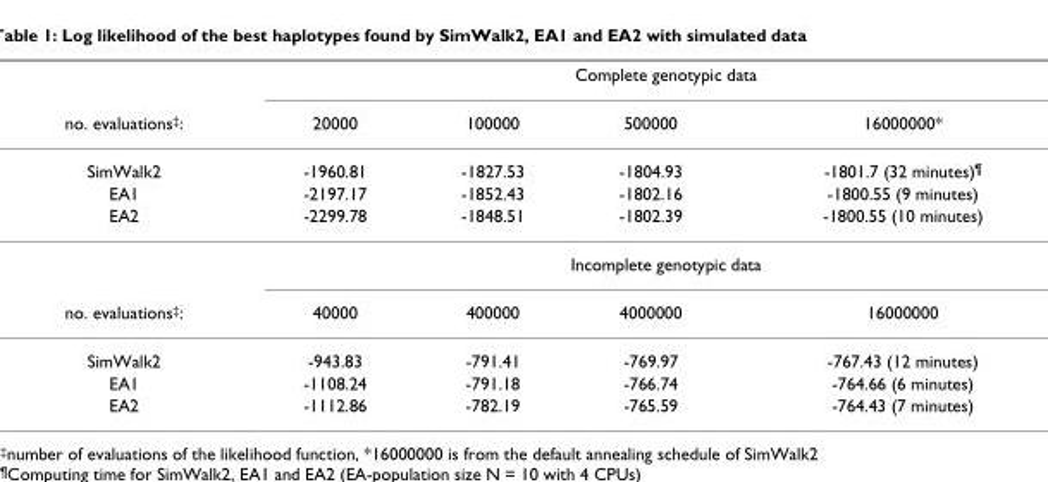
<table><thead><tr><td rowspan="2">no. evaluations<sup>‡</sup>:</td><td colspan="4">Complete genotypic data</td></tr><tr><td>20000</td><td>100000</td><td>500000</td><td>16000000*</td></tr></thead><tbody><tr><td>SimWalk2</td><td>-1960.81</td><td>-1827.53</td><td>-1804.93</td><td>-1801.7 (32 minutes)<sup>¶</sup></td></tr><tr><td>EA1</td><td>-2197.17</td><td>-1852.43</td><td>-1802.16</td><td>-1800.55 (9 minutes)</td></tr><tr><td rowspan="2">EA2</td><td>-2299.78</td><td>-1848.51</td><td>-1802.39</td><td>-1800.55 (10 minutes)</td></tr><tr><td colspan="4">Incomplete genotypic data</td></tr><tr><td>no. evaluations<sup>‡</sup>:</td><td>40000</td><td>400000</td><td>4000000</td><td>16000000</td></tr><tr><td>SimWalk2</td><td>-943.83</td><td>-791.41</td><td>-769.97</td><td>-767.43 (12 minutes)</td></tr><tr><td>EA1</td><td>-1108.24</td><td>-791.18</td><td>-766.74</td><td>-764.66 (6 minutes)</td></tr><tr><td>EA2</td><td>-1112.86</td><td>-782.19</td><td>-765.59</td><td>-764.43 (7 minutes)</td></tr></tbody></table>